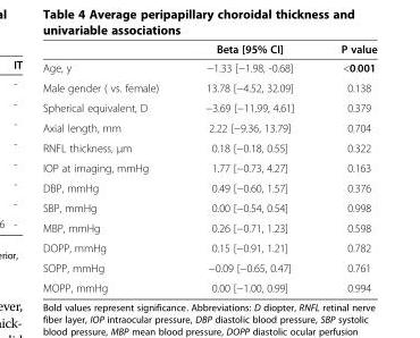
<table><thead><tr><td></td><td>Beta [95% CI]</td><td>P value</td></tr></thead><tbody><tr><td>Age, y</td><td>−1.33 [−1.98, -0.68]</td><td>&lt;0.001</td></tr><tr><td>Male gender ( vs. female)</td><td>13.78 [−4.52, 32.09]</td><td>0.138</td></tr><tr><td>Spherical equivalent, D</td><td>−3.69 [−11.99, 4.61]</td><td>0.379</td></tr><tr><td>Axial length, mm</td><td>2.22 [−9.36, 13.79]</td><td>0.704</td></tr><tr><td>RNFL thickness, μm</td><td>0.18 [−0.18, 0.55]</td><td>0.322</td></tr><tr><td>IOP at imaging, mmHg</td><td>1.77 [−0.73, 4.27]</td><td>0.163</td></tr><tr><td>DBP, mmHg</td><td>0.49 [−0.60, 1.57]</td><td>0.376</td></tr><tr><td>SBP, mmHg</td><td>0.00 [−0.54, 0.54]</td><td>0.998</td></tr><tr><td>MBP, mmHg</td><td>0.26 [−0.71, 1.23]</td><td>0.598</td></tr><tr><td>DOPP, mmHg</td><td>0.15 [−0.91, 1.21]</td><td>0.782</td></tr><tr><td>SOPP, mmHg</td><td>−0.09 [−0.65, 0.47]</td><td>0.761</td></tr><tr><td>MOPP, mmHg</td><td>0.00 [−1.00, 0.99]</td><td>0.994</td></tr></tbody></table>